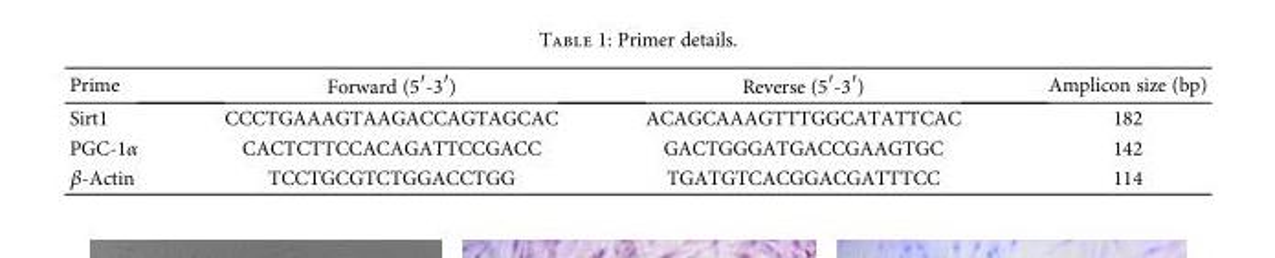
<table><thead><tr><td>Prime</td><td>Forward (5′-3′)</td><td>Reverse (5′-3′)</td><td>Amplicon size (bp)</td></tr></thead><tbody><tr><td>Sirt1</td><td>CCCTGAAAGTAAGACCAGTAGCAC</td><td>ACAGCAAAGTTTGGCATATTCAC</td><td>182</td></tr><tr><td>PGC-1α</td><td>CACTCTTCCACAGATTCCGACC</td><td>GACTGGGATGACCGAAGTGC</td><td>142</td></tr><tr><td>β-Actin</td><td>TCCTGCGTCTGGACCTGG</td><td>TGATGTCACGGACGATTTCC</td><td>114</td></tr></tbody></table>